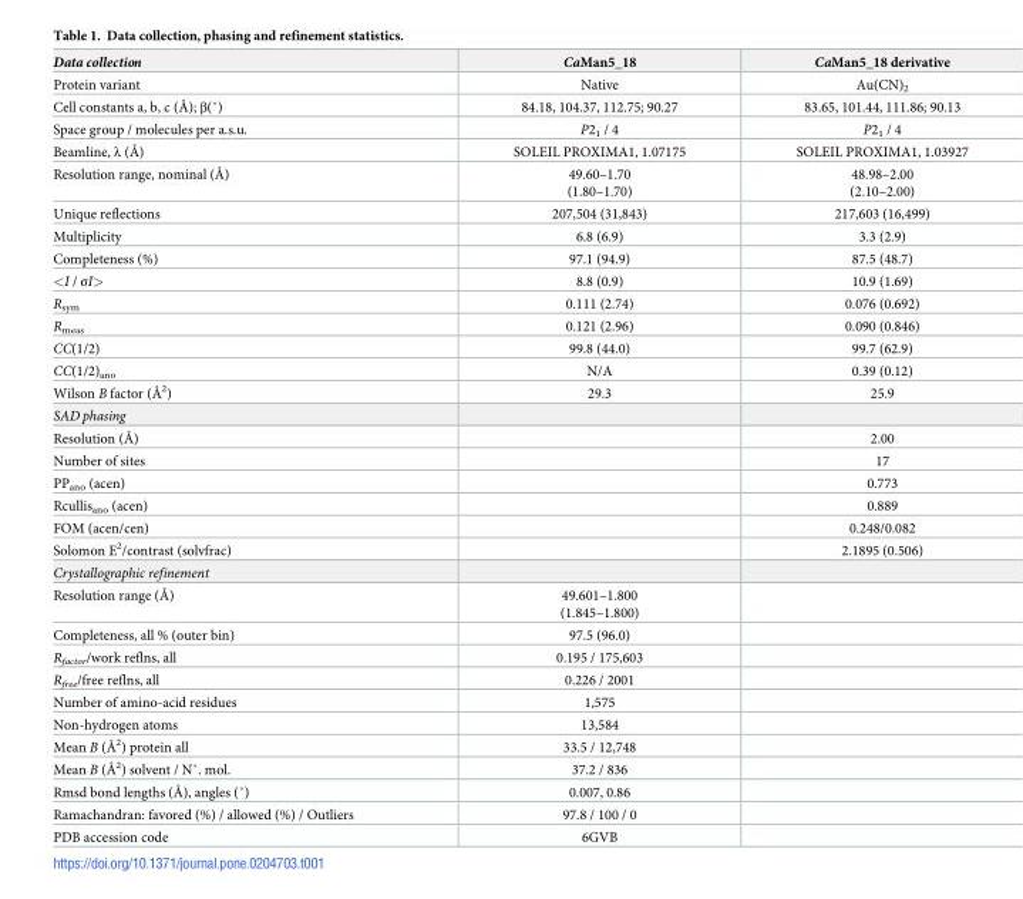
<table><thead><tr><td>Data collection</td><td>CaMan5_18</td><td>CaMan5_18 derivative</td></tr></thead><tbody><tr><td>Protein variant</td><td>Native</td><td>Au(CN)<sub>2</sub></td></tr><tr><td>Cell constants a, b, c (Å); β(˚)</td><td>84.18, 104.37, 112.75; 90.27</td><td>83.65, 101.44, 111.86; 90.13</td></tr><tr><td>Space group / molecules per a.s.u.</td><td>P2<sub>1</sub> / 4</td><td>P2<sub>1</sub> / 4</td></tr><tr><td>Beamline, λ (Å)</td><td>SOLEIL PROXIMA1, 1.07175</td><td>SOLEIL PROXIMA1, 1.03927</td></tr><tr><td>Resolution range, nominal (Å)</td><td>49.60–1.70 (1.80–1.70)</td><td>48.98–2.00 (2.10–2.00)</td></tr><tr><td>Unique reflections</td><td>207,504 (31,843)</td><td>217,603 (16,499)</td></tr><tr><td>Multiplicity</td><td>6.8 (6.9)</td><td>3.3 (2.9)</td></tr><tr><td>Completeness (%)</td><td>97.1 (94.9)</td><td>87.5 (48.7)</td></tr><tr><td>&lt;I / σI&gt;</td><td>8.8 (0.9)</td><td>10.9 (1.69)</td></tr><tr><td>R<sub>sym</sub></td><td>0.111 (2.74)</td><td>0.076 (0.692)</td></tr><tr><td>R<sub>meas</sub></td><td>0.121 (2.96)</td><td>0.090 (0.846)</td></tr><tr><td>CC(1/2)</td><td>99.8 (44.0)</td><td>99.7 (62.9)</td></tr><tr><td>CC(1/2)<sub>ano</sub></td><td>N/A</td><td>0.39 (0.12)</td></tr><tr><td>Wilson B factor (Å<sup>2</sup>)</td><td>29.3</td><td>25.9</td></tr><tr><td colspan="3">SAD phasing</td></tr><tr><td>Resolution (Å)</td><td></td><td>2.00</td></tr><tr><td>Number of sites</td><td></td><td>17</td></tr><tr><td>PP<sub>ano</sub> (acen)</td><td></td><td>0.773</td></tr><tr><td>Rcullis<sub>ano</sub> (acen)</td><td></td><td>0.889</td></tr><tr><td>FOM (acen/cen)</td><td></td><td>0.248/0.082</td></tr><tr><td>Solomon E<sup>2</sup>/contrast (solvfrac)</td><td></td><td>2.1895 (0.506)</td></tr><tr><td colspan="3">Crystallographic refinement</td></tr><tr><td>Resolution range (Å)</td><td>49.601–1.800 (1.845–1.800)</td><td></td></tr><tr><td>Completeness, all % (outer bin)</td><td>97.5 (96.0)</td><td></td></tr><tr><td>R<sub>factor</sub>/work reflns, all</td><td>0.195 / 175,603</td><td></td></tr><tr><td>R<sub>free</sub>/free reflns, all</td><td>0.226 / 2001</td><td></td></tr><tr><td>Number of amino-acid residues</td><td>1,575</td><td></td></tr><tr><td>Non-hydrogen atoms</td><td>13,584</td><td></td></tr><tr><td>Mean B (Å<sup>2</sup>) protein all</td><td>33.5 / 12,748</td><td></td></tr><tr><td>Mean B (Å2) solvent / N˚. mol.</td><td>37.2 / 836</td><td></td></tr><tr><td>Rmsd bond lengths (Å), angles (˚)</td><td>0.007, 0.86</td><td></td></tr><tr><td>Ramachandran: favored (%) / allowed (%) / Outliers</td><td>97.8 / 100 / 0</td><td></td></tr><tr><td>PDB accession code</td><td>6GVB</td><td></td></tr></tbody></table>